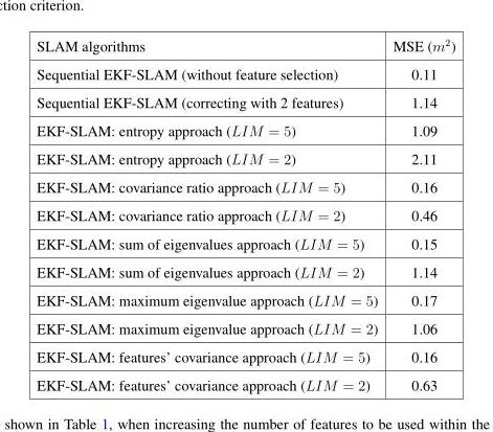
<table><thead><tr><td>SLAM algorithms</td><td>MSE (m<sup>2</sup>)</td></tr></thead><tbody><tr><td>Sequential EKF-SLAM (without feature selection)</td><td>0.11</td></tr><tr><td>Sequential EKF-SLAM (correcting with 2 features)</td><td>1.14</td></tr><tr><td>EKF-SLAM: entropy approach (LIM = 5)</td><td>1.09</td></tr><tr><td>EKF-SLAM: entropy approach (LIM = 2)</td><td>2.11</td></tr><tr><td>EKF-SLAM: covariance ratio approach (LIM = 5)</td><td>0.16</td></tr><tr><td>EKF-SLAM: covariance ratio approach (LIM = 2)</td><td>0.46</td></tr><tr><td>EKF-SLAM: sum of eigenvalues approach (LIM = 5)</td><td>0.15</td></tr><tr><td>EKF-SLAM: sum of eigenvalues approach (LIM = 2)</td><td>1.14</td></tr><tr><td>EKF-SLAM: maximum eigenvalue approach (LIM = 5)</td><td>0.17</td></tr><tr><td>EKF-SLAM: maximum eigenvalue approach (LIM = 2)</td><td>1.06</td></tr><tr><td>EKF-SLAM: features’ covariance approach (LIM = 5)</td><td>0.16</td></tr><tr><td>EKF-SLAM: features’ covariance approach (LIM = 2)</td><td>0.63</td></tr></tbody></table>